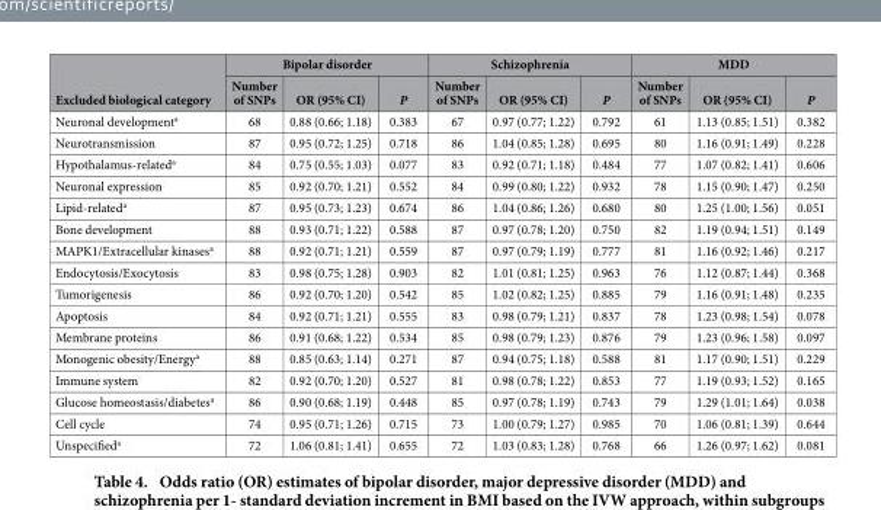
<table><thead><tr><td rowspan="2">Excluded biological category</td><td colspan="3">Bipolar disorder</td><td colspan="3">Schizophrenia</td><td colspan="3">MDD</td></tr><tr><td>Number of SNPs</td><td>OR (95% CI)</td><td>P</td><td>Number of SNPs</td><td>OR (95% CI)</td><td>P</td><td>Number of SNPs</td><td>OR (95% CI)</td><td>P</td></tr></thead><tbody><tr><td>Neuronal development<sup>a</sup></td><td>68</td><td>0.88 (0.66; 1.18)</td><td>0.383</td><td>67</td><td>0.97 (0.77; 1.22)</td><td>0.792</td><td>61</td><td>1.13 (0.85; 1.51)</td><td>0.382</td></tr><tr><td>Neurotransmission</td><td>87</td><td>0.95 (0.72; 1.25)</td><td>0.718</td><td>86</td><td>1.04 (0.85; 1.28)</td><td>0.695</td><td>80</td><td>1.16 (0.91; 1.49)</td><td>0.228</td></tr><tr><td>Hypothalamus-related<sup>a</sup></td><td>84</td><td>0.75 (0.55; 1.03)</td><td>0.077</td><td>83</td><td>0.92 (0.71; 1.18)</td><td>0.484</td><td>77</td><td>1.07 (0.82; 1.41)</td><td>0.606</td></tr><tr><td>Neuronal expression</td><td>85</td><td>0.92 (0.70; 1.21)</td><td>0.552</td><td>84</td><td>0.99 (0.80; 1.22)</td><td>0.932</td><td>78</td><td>1.15 (0.90; 1.47)</td><td>0.250</td></tr><tr><td>Lipid-related<sup>a</sup></td><td>87</td><td>0.95 (0.73; 1.23)</td><td>0.674</td><td>86</td><td>1.04 (0.86; 1.26)</td><td>0.680</td><td>80</td><td>1.25 (1.00; 1.56)</td><td>0.051</td></tr><tr><td>Bone development</td><td>88</td><td>0.93 (0.71; 1.22)</td><td>0.588</td><td>87</td><td>0.97 (0.78; 1.20)</td><td>0.750</td><td>82</td><td>1.19 (0.94; 1.51)</td><td>0.149</td></tr><tr><td>MAPK1/Extracellular kinases<sup>a</sup></td><td>88</td><td>0.92 (0.71; 1.21)</td><td>0.559</td><td>87</td><td>0.97 (0.79; 1.19)</td><td>0.777</td><td>81</td><td>1.16 (0.92; 1.46)</td><td>0.217</td></tr><tr><td>Endocytosis/Exocytosis</td><td>83</td><td>0.98 (0.75; 1.28)</td><td>0.903</td><td>82</td><td>1.01 (0.81; 1.25)</td><td>0.963</td><td>76</td><td>1.12 (0.87; 1.44)</td><td>0.368</td></tr><tr><td>Tumorigenesis</td><td>86</td><td>0.92 (0.70; 1.20)</td><td>0.542</td><td>85</td><td>1.02 (0.82; 1.25)</td><td>0.885</td><td>79</td><td>1.16 (0.91; 1.48)</td><td>0.235</td></tr><tr><td>Apoptosis</td><td>84</td><td>0.92 (0.71; 1.21)</td><td>0.555</td><td>83</td><td>0.98 (0.79; 1.21)</td><td>0.837</td><td>78</td><td>1.23 (0.98; 1.54)</td><td>0.078</td></tr><tr><td>Membrane proteins</td><td>86</td><td>0.91 (0.68; 1.22)</td><td>0.534</td><td>85</td><td>0.98 (0.79; 1.23)</td><td>0.876</td><td>79</td><td>1.23 (0.96; 1.58)</td><td>0.097</td></tr><tr><td>Monogenic obesity/Energy<sup>a</sup></td><td>88</td><td>0.85 (0.63; 1.14)</td><td>0.271</td><td>87</td><td>0.94 (0.75; 1.18)</td><td>0.588</td><td>81</td><td>1.17 (0.90; 1.51)</td><td>0.229</td></tr><tr><td>Immune system</td><td>82</td><td>0.92 (0.70; 1.20)</td><td>0.527</td><td>81</td><td>0.98 (0.78; 1.22)</td><td>0.853</td><td>77</td><td>1.19 (0.93; 1.52)</td><td>0.165</td></tr><tr><td>Glucose homeostasis/diabetes<sup>a</sup></td><td>86</td><td>0.90 (0.68; 1.19)</td><td>0.448</td><td>85</td><td>0.97 (0.78; 1.19)</td><td>0.743</td><td>79</td><td>1.29 (1.01; 1.64)</td><td>0.038</td></tr><tr><td>Cell cycle</td><td>74</td><td>0.95 (0.71; 1.26)</td><td>0.715</td><td>73</td><td>1.00 (0.79; 1.27)</td><td>0.985</td><td>70</td><td>1.06 (0.81; 1.39)</td><td>0.644</td></tr><tr><td>Unspecified<sup>a</sup></td><td>72</td><td>1.06 (0.81; 1.41)</td><td>0.655</td><td>72</td><td>1.03 (0.83; 1.28)</td><td>0.768</td><td>66</td><td>1.26 (0.97; 1.62)</td><td>0.081</td></tr></tbody></table>